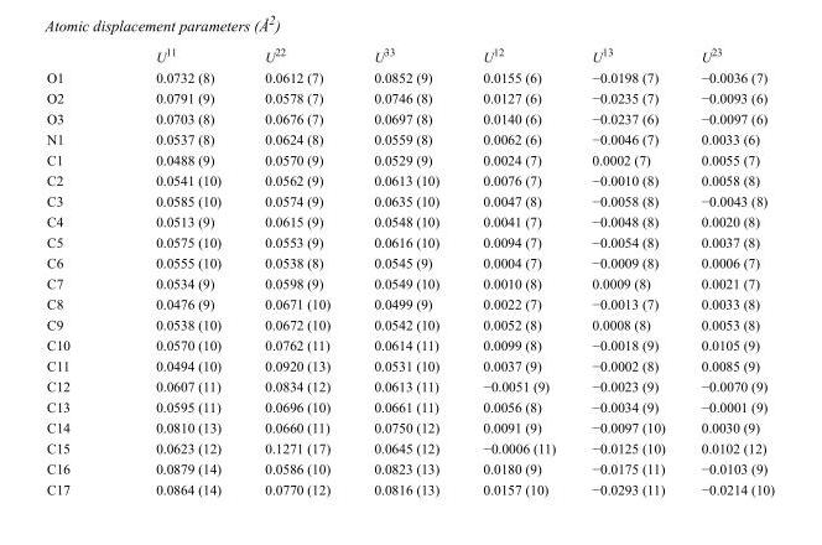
<table><thead><tr><td></td><td>U<sup>11</sup></td><td>U<sup>22</sup></td><td>U<sup>33</sup></td><td>U<sup>12</sup></td><td>U<sup>13</sup></td><td>U<sup>23</sup></td></tr></thead><tbody><tr><td>O1</td><td>0.0732 (8)</td><td>0.0612 (7)</td><td>0.0852 (9)</td><td>0.0155 (6)</td><td>−0.0198 (7)</td><td>−0.0036 (7)</td></tr><tr><td>O2</td><td>0.0791 (9)</td><td>0.0578 (7)</td><td>0.0746 (8)</td><td>0.0127 (6)</td><td>−0.0235 (7)</td><td>−0.0093 (6)</td></tr><tr><td>O3</td><td>0.0703 (8)</td><td>0.0676 (7)</td><td>0.0697 (8)</td><td>0.0140 (6)</td><td>−0.0237 (6)</td><td>−0.0097 (6)</td></tr><tr><td>N1</td><td>0.0537 (8)</td><td>0.0624 (8)</td><td>0.0559 (8)</td><td>0.0062 (6)</td><td>−0.0046 (7)</td><td>0.0033 (6)</td></tr><tr><td>C1</td><td>0.0488 (9)</td><td>0.0570 (9)</td><td>0.0529 (9)</td><td>0.0024 (7)</td><td>0.0002 (7)</td><td>0.0055 (7)</td></tr><tr><td>C2</td><td>0.0541 (10)</td><td>0.0562 (9)</td><td>0.0613 (10)</td><td>0.0076 (7)</td><td>−0.0010 (8)</td><td>0.0058 (8)</td></tr><tr><td>C3</td><td>0.0585 (10)</td><td>0.0574 (9)</td><td>0.0635 (10)</td><td>0.0047 (8)</td><td>−0.0058 (8)</td><td>−0.0043 (8)</td></tr><tr><td>C4</td><td>0.0513 (9)</td><td>0.0615 (9)</td><td>0.0548 (10)</td><td>0.0041 (7)</td><td>−0.0048 (8)</td><td>0.0020 (8)</td></tr><tr><td>C5</td><td>0.0575 (10)</td><td>0.0553 (9)</td><td>0.0616 (10)</td><td>0.0094 (7)</td><td>−0.0054 (8)</td><td>0.0037 (8)</td></tr><tr><td>C6</td><td>0.0555 (10)</td><td>0.0538 (8)</td><td>0.0545 (9)</td><td>0.0004 (7)</td><td>−0.0009 (8)</td><td>0.0006 (7)</td></tr><tr><td>C7</td><td>0.0534 (9)</td><td>0.0598 (9)</td><td>0.0549 (10)</td><td>0.0010 (8)</td><td>0.0009 (8)</td><td>0.0021 (7)</td></tr><tr><td>C8</td><td>0.0476 (9)</td><td>0.0671 (10)</td><td>0.0499 (9)</td><td>0.0022 (7)</td><td>−0.0013 (7)</td><td>0.0033 (8)</td></tr><tr><td>C9</td><td>0.0538 (10)</td><td>0.0672 (10)</td><td>0.0542 (10)</td><td>0.0052 (8)</td><td>0.0008 (8)</td><td>0.0053 (8)</td></tr><tr><td>C10</td><td>0.0570 (10)</td><td>0.0762 (11)</td><td>0.0614 (11)</td><td>0.0099 (8)</td><td>−0.0018 (9)</td><td>0.0105 (9)</td></tr><tr><td>C11</td><td>0.0494 (10)</td><td>0.0920 (13)</td><td>0.0531 (10)</td><td>0.0037 (9)</td><td>−0.0002 (8)</td><td>0.0085 (9)</td></tr><tr><td>C12</td><td>0.0607 (11)</td><td>0.0834 (12)</td><td>0.0613 (11)</td><td>−0.0051 (9)</td><td>−0.0023 (9)</td><td>−0.0070 (9)</td></tr><tr><td>C13</td><td>0.0595 (11)</td><td>0.0696 (10)</td><td>0.0661 (11)</td><td>0.0056 (8)</td><td>−0.0034 (9)</td><td>−0.0001 (9)</td></tr><tr><td>C14</td><td>0.0810 (13)</td><td>0.0660 (11)</td><td>0.0750 (12)</td><td>0.0091 (9)</td><td>−0.0097 (10)</td><td>0.0030 (9)</td></tr><tr><td>C15</td><td>0.0623 (12)</td><td>0.1271 (17)</td><td>0.0645 (12)</td><td>−0.0006 (11)</td><td>−0.0125 (10)</td><td>0.0102 (12)</td></tr><tr><td>C16</td><td>0.0879 (14)</td><td>0.0586 (10)</td><td>0.0823 (13)</td><td>0.0180 (9)</td><td>−0.0175 (11)</td><td>−0.0103 (9)</td></tr><tr><td>C17</td><td>0.0864 (14)</td><td>0.0770 (12)</td><td>0.0816 (13)</td><td>0.0157 (10)</td><td>−0.0293 (11)</td><td>−0.0214 (10)</td></tr></tbody></table>